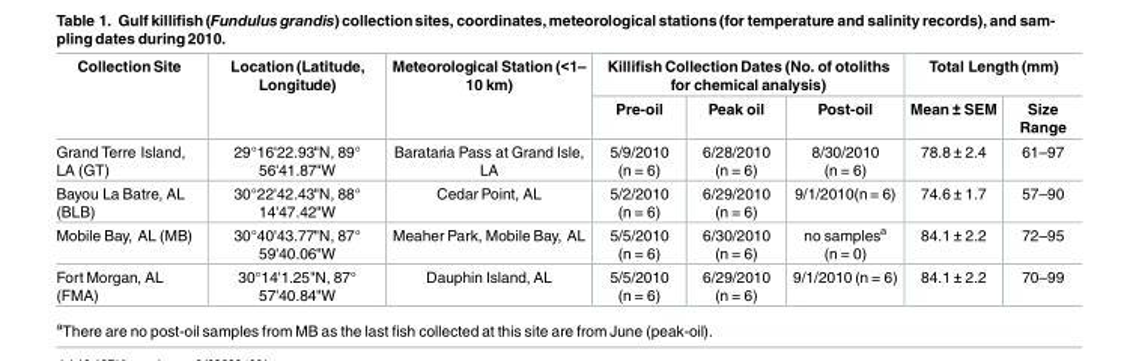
<table><thead><tr><td rowspan="2">Collection Site</td><td rowspan="2">Location (Latitude, Longitude)</td><td rowspan="2">Meteorological Station (&lt;1– 10 km)</td><td colspan="3">Killifish Collection Dates (No. of otoliths for chemical analysis)</td><td colspan="2">Total Length (mm)</td></tr><tr><td>Pre-oil</td><td>Peak oil</td><td>Post-oil</td><td>Mean ± SEM</td><td>Size Range</td></tr></thead><tbody><tr><td>Grand Terre Island, LA (GT)</td><td>29°16&#x27;22.93&quot;N, 89° 56&#x27;41.87&quot;W</td><td>Barataria Pass at Grand Isle, LA</td><td>5/9/2010 (n = 6)</td><td>6/28/2010 (n = 6)</td><td>8/30/2010 (n = 6)</td><td>78.8 ± 2.4</td><td>61–97</td></tr><tr><td>Bayou La Batre, AL (BLB)</td><td>30°22&#x27;42.43&quot;N, 88° 14&#x27;47.42&quot;W</td><td>Cedar Point, AL</td><td>5/2/2010 (n = 6)</td><td>6/29/2010 (n = 6)</td><td>9/1/2010(n = 6)</td><td>74.6 ± 1.7</td><td>57–90</td></tr><tr><td>Mobile Bay, AL (MB)</td><td>30°40&#x27;43.77&quot;N, 87° 59&#x27;40.06&quot;W</td><td>Meaher Park, Mobile Bay, AL</td><td>5/5/2010 (n = 6)</td><td>6/30/2010 (n = 6)</td><td>no samples<sup>a</sup> (n = 0)</td><td>84.1 ± 2.2</td><td>72–95</td></tr><tr><td>Fort Morgan, AL (FMA)</td><td>30°14&#x27;1.25&quot;N, 87° 57&#x27;40.84&quot;W</td><td>Dauphin Island, AL</td><td>5/5/2010 (n = 6)</td><td>6/29/2010 (n = 6)</td><td>9/1/2010 (n = 6)</td><td>84.1 ± 2.2</td><td>70–99</td></tr></tbody></table>